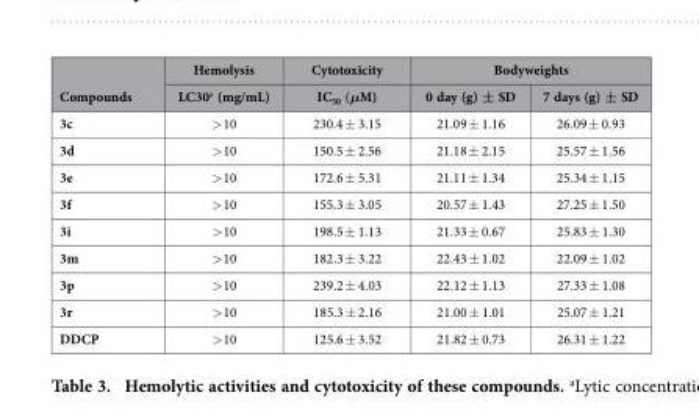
<table><thead><tr><td rowspan="2">Compounds</td><td rowspan="2">Hemolysis LC30<sup>a</sup> (mg/mL)</td><td rowspan="2">Cytotoxicity IC<sub>50</sub> (μM)</td><td colspan="2">Bodyweights</td></tr><tr><td>0 day (g) ± SD</td><td>7 days (g) ± SD</td></tr></thead><tbody><tr><td>3c</td><td>&gt; 10</td><td>230.4 ± 3.15</td><td>21.09 ± 1.16</td><td>26.09 ± 0.93</td></tr><tr><td>3d</td><td>&gt; 10</td><td>150.5 ± 2.56</td><td>21.18 ± 2.15</td><td>25.57 ± 1.56</td></tr><tr><td>3e</td><td>&gt; 10</td><td>172.6 ± 5.31</td><td>21.11 ± 1.34</td><td>25.34 ± 1.15</td></tr><tr><td>3f</td><td>&gt; 10</td><td>155.3 ± 3.05</td><td>20.57 ± 1.43</td><td>27.25 ± 1.50</td></tr><tr><td>3i</td><td>&gt; 10</td><td>198.5 ± 1.13</td><td>21.33 ± 0.67</td><td>25.83 ± 1.30</td></tr><tr><td>3m</td><td>&gt; 10</td><td>182.3 ± 3.22</td><td>22.43 ± 1.02</td><td>22.09 ± 1.02</td></tr><tr><td>3p</td><td>&gt; 10</td><td>239.2 ± 4.03</td><td>22.12 ± 1.13</td><td>27.33 ± 1.08</td></tr><tr><td>3r</td><td>&gt; 10</td><td>185.3 ± 2.16</td><td>21.00 ± 1.01</td><td>25.07 ± 1.21</td></tr><tr><td>DDCP</td><td>&gt; 10</td><td>125.6 ± 3.52</td><td>21.82 ± 0.73</td><td>26.31 ± 1.22</td></tr></tbody></table>